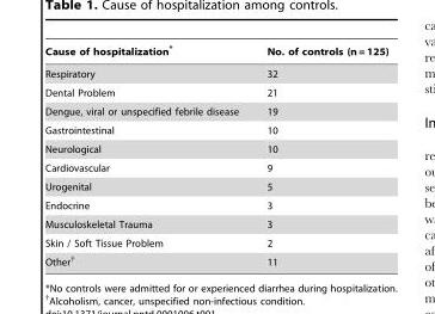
<table><thead><tr><td>Cause of hospitalization*</td><td>No. of controls (n = 125)</td></tr></thead><tbody><tr><td>Respiratory</td><td>32</td></tr><tr><td>Dental Problem</td><td>21</td></tr><tr><td>Dengue, viral or unspecified febrile disease</td><td>19</td></tr><tr><td>Gastrointestinal</td><td>10</td></tr><tr><td>Neurological</td><td>10</td></tr><tr><td>Cardiovascular</td><td>9</td></tr><tr><td>Urogenital</td><td>5</td></tr><tr><td>Endocrine</td><td>3</td></tr><tr><td>Musculoskeletal Trauma</td><td>3</td></tr><tr><td>Skin / Soft Tissue Problem</td><td>2</td></tr><tr><td>Other†</td><td>11</td></tr></tbody></table>